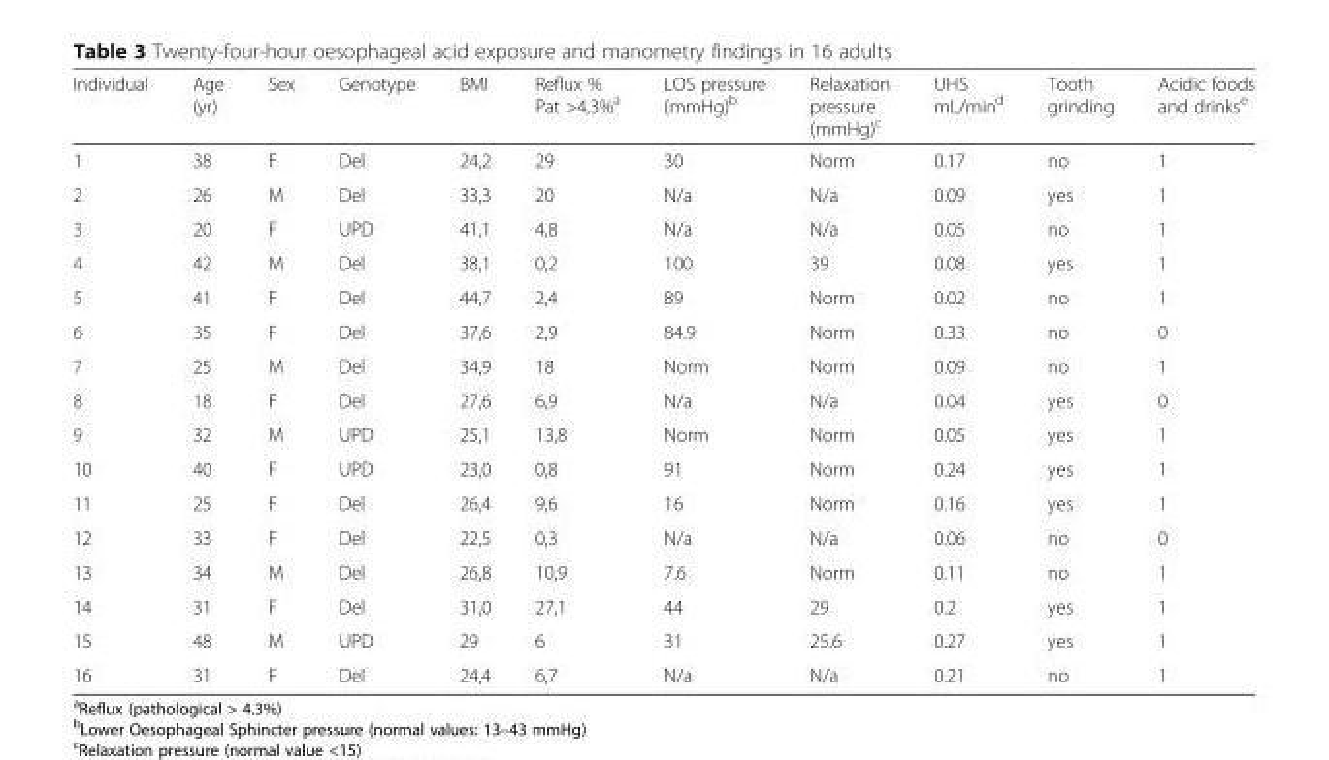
<table><thead><tr><td>Individual</td><td>Age (yr)</td><td>Sex</td><td>Genotype</td><td>BMI</td><td>Reflux % Pat &gt;4,3%<sup>a</sup></td><td>LOS pressure (mmHg)<sup>b</sup></td><td>Relaxation pressure (mmHg)<sup>c</sup></td><td>UHS mL/min<sup>d</sup></td><td>Tooth grinding</td><td>Acidic foods and drinks<sup>e</sup></td></tr></thead><tbody><tr><td>1</td><td>38</td><td>F</td><td>Del</td><td>24,2</td><td>29</td><td>30</td><td>Norm</td><td>0.17</td><td>no</td><td>1</td></tr><tr><td>2</td><td>26</td><td>M</td><td>Del</td><td>33,3</td><td>20</td><td>N/a</td><td>N/a</td><td>0.09</td><td>yes</td><td>1</td></tr><tr><td>3</td><td>20</td><td>F</td><td>UPD</td><td>41,1</td><td>4,8</td><td>N/a</td><td>N/a</td><td>0.05</td><td>no</td><td>1</td></tr><tr><td>4</td><td>42</td><td>M</td><td>Del</td><td>38,1</td><td>0,2</td><td>100</td><td>39</td><td>0.08</td><td>yes</td><td>1</td></tr><tr><td>5</td><td>41</td><td>F</td><td>Del</td><td>44,7</td><td>2,4</td><td>89</td><td>Norm</td><td>0.02</td><td>no</td><td>1</td></tr><tr><td>6</td><td>35</td><td>F</td><td>Del</td><td>37,6</td><td>2,9</td><td>84.9</td><td>Norm</td><td>0.33</td><td>no</td><td>0</td></tr><tr><td>7</td><td>25</td><td>M</td><td>Del</td><td>34,9</td><td>18</td><td>Norm</td><td>Norm</td><td>0.09</td><td>no</td><td>1</td></tr><tr><td>8</td><td>18</td><td>F</td><td>Del</td><td>27,6</td><td>6,9</td><td>N/a</td><td>N/a</td><td>0.04</td><td>yes</td><td>0</td></tr><tr><td>9</td><td>32</td><td>M</td><td>UPD</td><td>25,1</td><td>13,8</td><td>Norm</td><td>Norm</td><td>0.05</td><td>yes</td><td>1</td></tr><tr><td>10</td><td>40</td><td>F</td><td>UPD</td><td>23,0</td><td>0,8</td><td>91</td><td>Norm</td><td>0.24</td><td>yes</td><td>1</td></tr><tr><td>11</td><td>25</td><td>F</td><td>Del</td><td>26,4</td><td>9,6</td><td>16</td><td>Norm</td><td>0.16</td><td>yes</td><td>1</td></tr><tr><td>12</td><td>33</td><td>F</td><td>Del</td><td>22,5</td><td>0,3</td><td>N/a</td><td>N/a</td><td>0.06</td><td>no</td><td>0</td></tr><tr><td>13</td><td>34</td><td>M</td><td>Del</td><td>26,8</td><td>10,9</td><td>7.6</td><td>Norm</td><td>0.11</td><td>no</td><td>1</td></tr><tr><td>14</td><td>31</td><td>F</td><td>Del</td><td>31,0</td><td>27,1</td><td>44</td><td>29</td><td>0.2</td><td>yes</td><td>1</td></tr><tr><td>15</td><td>48</td><td>M</td><td>UPD</td><td>29</td><td>6</td><td>31</td><td>25.6</td><td>0.27</td><td>yes</td><td>1</td></tr><tr><td>16</td><td>31</td><td>F</td><td>Del</td><td>24,4</td><td>6,7</td><td>N/a</td><td>N/a</td><td>0.21</td><td>no</td><td>1</td></tr></tbody></table>